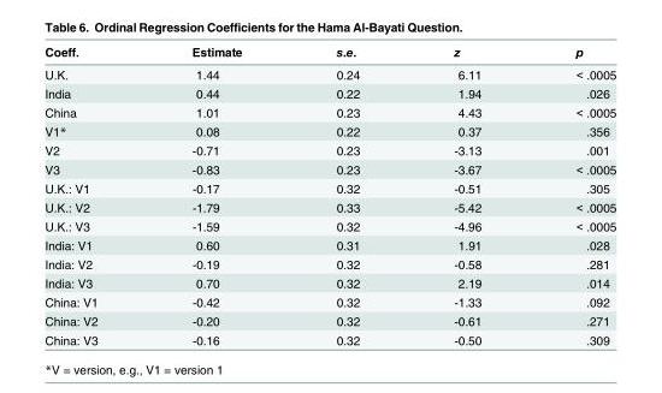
<table><thead><tr><td>Coeff.</td><td>Estimate</td><td>s.e.</td><td>z</td><td>p</td></tr></thead><tbody><tr><td>U.K.</td><td>1.44</td><td>0.24</td><td>6.11</td><td>&lt; .0005</td></tr><tr><td>India</td><td>0.44</td><td>0.22</td><td>1.94</td><td>.026</td></tr><tr><td>China</td><td>1.01</td><td>0.23</td><td>4.43</td><td>&lt; .0005</td></tr><tr><td>V1*</td><td>0.08</td><td>0.22</td><td>0.37</td><td>.356</td></tr><tr><td>V2</td><td>-0.71</td><td>0.23</td><td>-3.13</td><td>.001</td></tr><tr><td>V3</td><td>-0.83</td><td>0.23</td><td>-3.67</td><td>&lt; .0005</td></tr><tr><td>U.K.: V1</td><td>-0.17</td><td>0.32</td><td>-0.51</td><td>.305</td></tr><tr><td>U.K.: V2</td><td>-1.79</td><td>0.33</td><td>-5.42</td><td>&lt; .0005</td></tr><tr><td>U.K.: V3</td><td>-1.59</td><td>0.32</td><td>-4.96</td><td>&lt; .0005</td></tr><tr><td>India: V1</td><td>0.60</td><td>0.31</td><td>1.91</td><td>.028</td></tr><tr><td>India: V2</td><td>-0.19</td><td>0.32</td><td>-0.58</td><td>.281</td></tr><tr><td>India: V3</td><td>0.70</td><td>0.32</td><td>2.19</td><td>.014</td></tr><tr><td>China: V1</td><td>-0.42</td><td>0.32</td><td>-1.33</td><td>.092</td></tr><tr><td>China: V2</td><td>-0.20</td><td>0.32</td><td>-0.61</td><td>.271</td></tr><tr><td>China: V3</td><td>-0.16</td><td>0.32</td><td>-0.50</td><td>.309</td></tr></tbody></table>